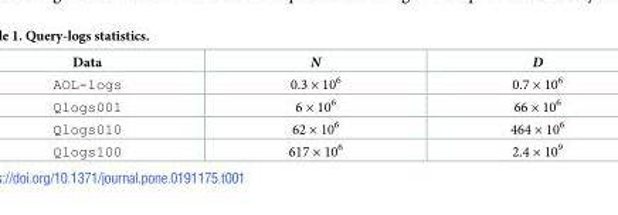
<table><thead><tr><td>Data</td><td>N</td><td>D</td></tr></thead><tbody><tr><td>AOL-logs</td><td>0.3 × 10<sup>6</sup></td><td>0.7 × 10<sup>6</sup></td></tr><tr><td>Qlogs001</td><td>6 × 10<sup>6</sup></td><td>66 × 10<sup>6</sup></td></tr><tr><td>Qlogs010</td><td>62 × 10<sup>6</sup></td><td>464 × 10<sup>6</sup></td></tr><tr><td>Qlogs100</td><td>617 × 10<sup>6</sup></td><td>2.4 × 10<sup>9</sup></td></tr></tbody></table>